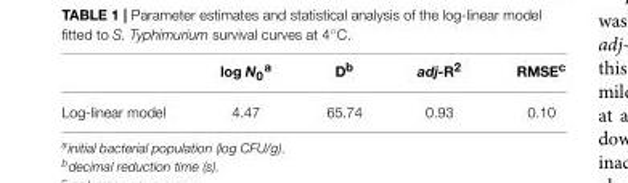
<table><thead><tr><td></td><td>log N<sub>0</sub><sup>a</sup></td><td>D<sup>b</sup></td><td>adj-R<sup>2</sup></td><td>RMSE<sup>c</sup></td></tr></thead><tbody><tr><td>Log-linear model</td><td>4.47</td><td>65.74</td><td>0.93</td><td>0.10</td></tr></tbody></table>